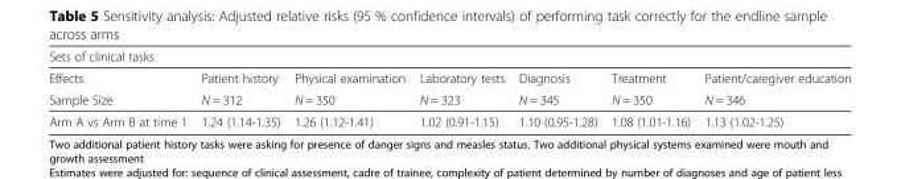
<table><thead><tr><td colspan="7">Sets of clinical tasks</td></tr><tr><td rowspan="2">Effects Sample Size</td><td rowspan="2">Patient history N = 312</td><td rowspan="2">Physical examination N = 350</td><td rowspan="2">Laboratory tests N = 323</td><td rowspan="2">Diagnosis N = 345</td><td rowspan="2">Treatment N = 350</td><td rowspan="2">Patient/caregiver education N = 346</td></tr><tr></tr></thead><tbody><tr><td>Arm A vs Arm B at time 1</td><td>1.24 (1.14-1.35)</td><td>1.26 (1.12-1.41)</td><td>1.02 (0.91-1.15)</td><td>1.10 (0.95-1.28)</td><td>1.08 (1.01-1.16)</td><td>1.13 (1.02-1.25)</td></tr></tbody></table>